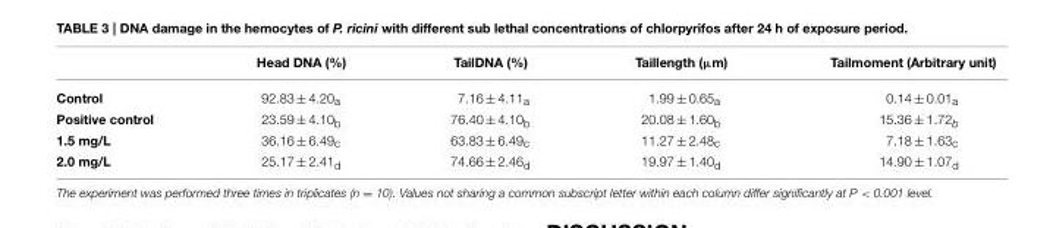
<table><thead><tr><td></td><td>Head DNA (%)</td><td>TailDNA (%)</td><td>Taillength (µm)</td><td>Tailmoment (Arbitrary unit)</td></tr></thead><tbody><tr><td>Control</td><td>92.83 ± 4.20<sub>a</sub></td><td>7.16 ± 4.11<sub>a</sub></td><td>1.99 ± 0.65<sub>a</sub></td><td>0.14 ± 0.01<sub>a</sub></td></tr><tr><td>Positive control</td><td>23.59 ± 4.10<sub>b</sub></td><td>76.40 ± 4.10<sub>b</sub></td><td>20.08 ± 1.60<sub>b</sub></td><td>15.36 ± 1.72<sub>b</sub></td></tr><tr><td>1.5 mg/L</td><td>36.16 ± 6.49<sub>c</sub></td><td>63.83 ± 6.49<sub>c</sub></td><td>11.27 ± 2.48<sub>c</sub></td><td>7.18 ± 1.63<sub>c</sub></td></tr><tr><td>2.0 mg/L</td><td>25.17 ± 2.41<sub>d</sub></td><td>74.66 ± 2.46<sub>d</sub></td><td>19.97 ± 1.40<sub>d</sub></td><td>14.90 ± 1.07<sub>d</sub></td></tr></tbody></table>